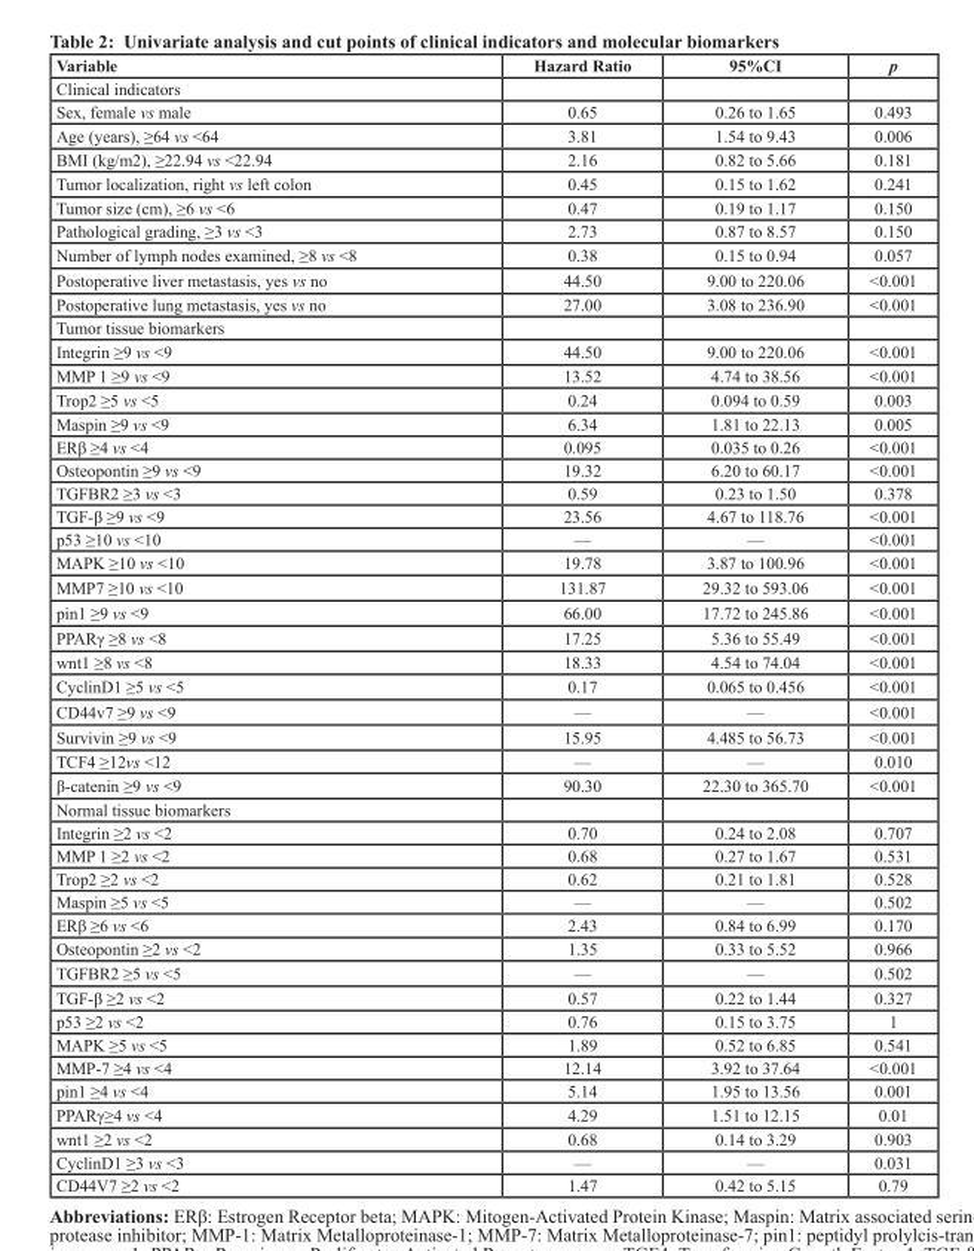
<table><thead><tr><td>Variable</td><td>Hazard Ratio</td><td>95%CI</td><td>p</td></tr></thead><tbody><tr><td colspan="4">Clinical indicators</td></tr><tr><td>Sex, female vs male</td><td>0.65</td><td>0.26 to 1.65</td><td>0.493</td></tr><tr><td>Age (years), ≥64 vs &lt;64</td><td>3.81</td><td>1.54 to 9.43</td><td>0.006</td></tr><tr><td>BMI (kg/m2), ≥22.94 vs &lt;22.94</td><td>2.16</td><td>0.82 to 5.66</td><td>0.181</td></tr><tr><td>Tumor localization, right vs left colon</td><td>0.45</td><td>0.15 to 1.62</td><td>0.241</td></tr><tr><td>Tumor size (cm), ≥6 vs &lt;6</td><td>0.47</td><td>0.19 to 1.17</td><td>0.150</td></tr><tr><td>Pathological grading, ≥3 vs &lt;3</td><td>2.73</td><td>0.87 to 8.57</td><td>0.150</td></tr><tr><td>Number of lymph nodes examined, ≥8 vs &lt;8</td><td>0.38</td><td>0.15 to 0.94</td><td>0.057</td></tr><tr><td>Postoperative liver metastasis, yes vs no</td><td>44.50</td><td>9.00 to 220.06</td><td>&lt;0.001</td></tr><tr><td>Postoperative lung metastasis, yes vs no</td><td>27.00</td><td>3.08 to 236.90</td><td>&lt;0.001</td></tr><tr><td colspan="4">Tumor tissue biomarkers</td></tr><tr><td>Integrin ≥9 vs &lt;9</td><td>44.50</td><td>9.00 to 220.06</td><td>&lt;0.001</td></tr><tr><td>MMP 1 ≥9 vs &lt;9</td><td>13.52</td><td>4.74 to 38.56</td><td>&lt;0.001</td></tr><tr><td>Trop2 ≥5 vs &lt;5</td><td>0.24</td><td>0.094 to 0.59</td><td>0.003</td></tr><tr><td>Maspin ≥9 vs &lt;9</td><td>6.34</td><td>1.81 to 22.13</td><td>0.005</td></tr><tr><td>ERβ ≥4 vs &lt;4</td><td>0.095</td><td>0.035 to 0.26</td><td>&lt;0.001</td></tr><tr><td>Osteopontin ≥9 vs &lt;9</td><td>19.32</td><td>6.20 to 60.17</td><td>&lt;0.001</td></tr><tr><td>TGFBR2 ≥3 vs &lt;3</td><td>0.59</td><td>0.23 to 1.50</td><td>0.378</td></tr><tr><td>TGF-β ≥9 vs &lt;9</td><td>23.56</td><td>4.67 to 118.76</td><td>&lt;0.001</td></tr><tr><td>p53 ≥10 vs &lt;10</td><td>—</td><td>—</td><td>&lt;0.001</td></tr><tr><td>MAPK ≥10 vs &lt;10</td><td>19.78</td><td>3.87 to 100.96</td><td>&lt;0.001</td></tr><tr><td>MMP7 ≥10 vs &lt;10</td><td>131.87</td><td>29.32 to 593.06</td><td>&lt;0.001</td></tr><tr><td>pin1 ≥9 vs &lt;9</td><td>66.00</td><td>17.72 to 245.86</td><td>&lt;0.001</td></tr><tr><td>PPARγ ≥8 vs &lt;8</td><td>17.25</td><td>5.36 to 55.49</td><td>&lt;0.001</td></tr><tr><td>wnt1 ≥8 vs &lt;8</td><td>18.33</td><td>4.54 to 74.04</td><td>&lt;0.001</td></tr><tr><td>CyclinD1 ≥5 vs &lt;5</td><td>0.17</td><td>0.065 to 0.456</td><td>&lt;0.001</td></tr><tr><td>CD44v7 ≥9 vs &lt;9</td><td>—</td><td>—</td><td>&lt;0.001</td></tr><tr><td>Survivin ≥9 vs &lt;9</td><td>15.95</td><td>4.485 to 56.73</td><td>&lt;0.001</td></tr><tr><td>TCF4 ≥12vs &lt;12</td><td>—</td><td>—</td><td>0.010</td></tr><tr><td>β-catenin ≥9 vs &lt;9</td><td>90.30</td><td>22.30 to 365.70</td><td>&lt;0.001</td></tr><tr><td colspan="4">Normal tissue biomarkers</td></tr><tr><td>Integrin ≥2 vs &lt;2</td><td>0.70</td><td>0.24 to 2.08</td><td>0.707</td></tr><tr><td>MMP 1 ≥2 vs &lt;2</td><td>0.68</td><td>0.27 to 1.67</td><td>0.531</td></tr><tr><td>Trop2 ≥2 vs &lt;2</td><td>0.62</td><td>0.21 to 1.81</td><td>0.528</td></tr><tr><td>Maspin ≥5 vs &lt;5</td><td>—</td><td>—</td><td>0.502</td></tr><tr><td>ERβ ≥6 vs &lt;6</td><td>2.43</td><td>0.84 to 6.99</td><td>0.170</td></tr><tr><td>Osteopontin ≥2 vs &lt;2</td><td>1.35</td><td>0.33 to 5.52</td><td>0.966</td></tr><tr><td>TGFBR2 ≥5 vs &lt;5</td><td>—</td><td>—</td><td>0.502</td></tr><tr><td>TGF-β ≥2 vs &lt;2</td><td>0.57</td><td>0.22 to 1.44</td><td>0.327</td></tr><tr><td>p53 ≥2 vs &lt;2</td><td>0.76</td><td>0.15 to 3.75</td><td>1</td></tr><tr><td>MAPK ≥5 vs &lt;5</td><td>1.89</td><td>0.52 to 6.85</td><td>0.541</td></tr><tr><td>MMP-7 ≥4 vs &lt;4</td><td>12.14</td><td>3.92 to 37.64</td><td>&lt;0.001</td></tr><tr><td>pin1 ≥4 vs &lt;4</td><td>5.14</td><td>1.95 to 13.56</td><td>0.001</td></tr><tr><td>PPARγ≥4 vs &lt;4</td><td>4.29</td><td>1.51 to 12.15</td><td>0.01</td></tr><tr><td>wnt1 ≥2 vs &lt;2</td><td>0.68</td><td>0.14 to 3.29</td><td>0.903</td></tr><tr><td>CyclinD1 ≥3 vs &lt;3</td><td>—</td><td>—</td><td>0.031</td></tr><tr><td>CD44V7 ≥2 vs &lt;2</td><td>1.47</td><td>0.42 to 5.15</td><td>0.79</td></tr></tbody></table>